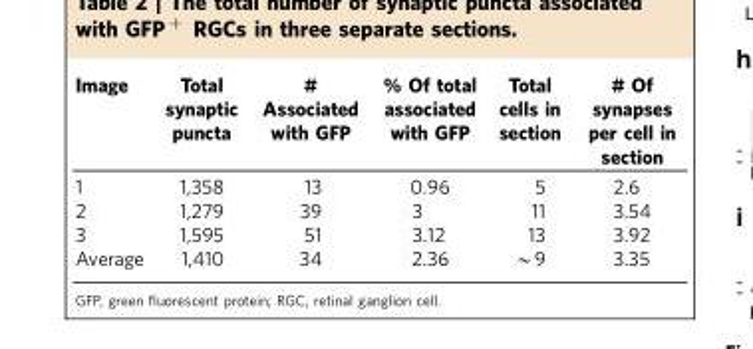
<table><thead><tr><td>Image</td><td>Total synaptic puncta</td><td># Associated with GFP</td><td>% Of total associated with GFP</td><td>Total cells in section</td><td># Of synapses per cell in section</td></tr></thead><tbody><tr><td>1</td><td>1,358</td><td>13</td><td>0.96</td><td>5</td><td>2.6</td></tr><tr><td>2</td><td>1,279</td><td>39</td><td>3</td><td>11</td><td>3.54</td></tr><tr><td>3</td><td>1,595</td><td>51</td><td>3.12</td><td>13</td><td>3.92</td></tr><tr><td>Average</td><td>1,410</td><td>34</td><td>2.36</td><td>∼9</td><td>3.35</td></tr></tbody></table>